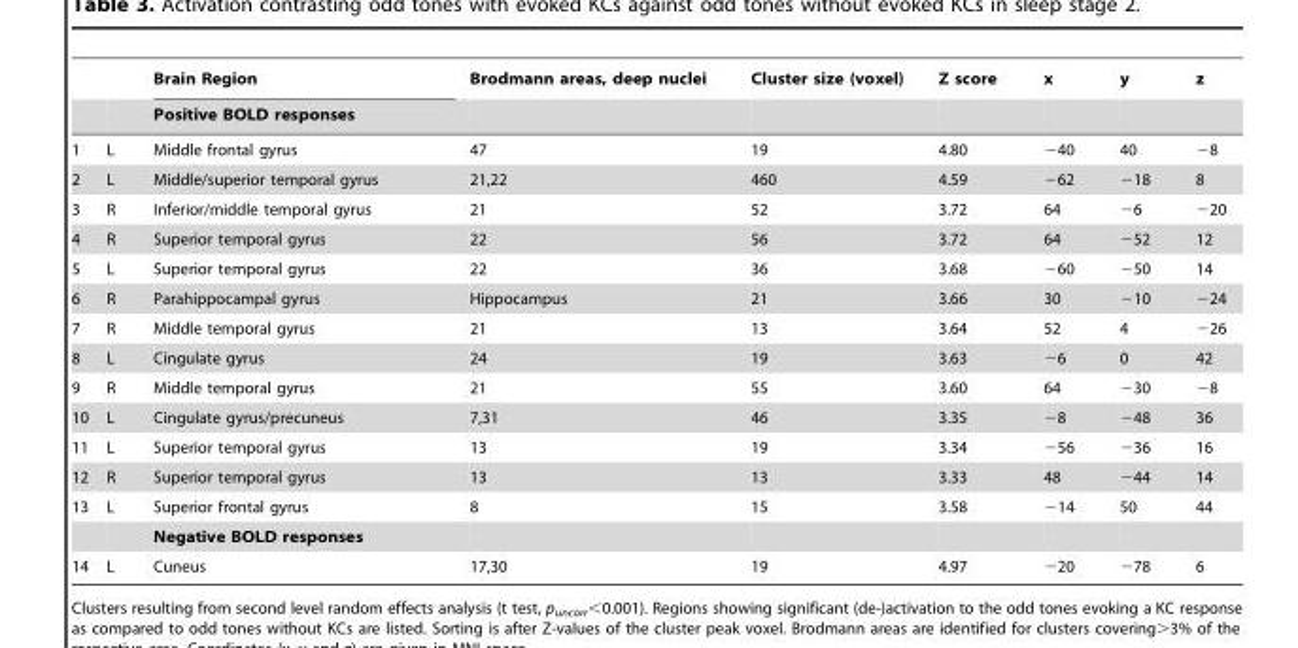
<table><thead><tr><td rowspan="2"></td><td rowspan="2"></td><td rowspan="2">Brain Region Positive BOLD responses</td><td rowspan="2">Brodmann areas, deep nuclei</td><td rowspan="2">Cluster size (voxel)</td><td rowspan="2">Z score</td><td rowspan="2">x</td><td rowspan="2">y</td><td rowspan="2">z</td></tr><tr></tr></thead><tbody><tr><td>1</td><td>L</td><td>Middle frontal gyrus</td><td>47</td><td>19</td><td>4.80</td><td>−40</td><td>40</td><td>−8</td></tr><tr><td>2</td><td>L</td><td>Middle/superior temporal gyrus</td><td>21,22</td><td>460</td><td>4.59</td><td>−62</td><td>−18</td><td>8</td></tr><tr><td>3</td><td>R</td><td>Inferior/middle temporal gyrus</td><td>21</td><td>52</td><td>3.72</td><td>64</td><td>−6</td><td>−20</td></tr><tr><td>4</td><td>R</td><td>Superior temporal gyrus</td><td>22</td><td>56</td><td>3.72</td><td>64</td><td>−52</td><td>12</td></tr><tr><td>5</td><td>L</td><td>Superior temporal gyrus</td><td>22</td><td>36</td><td>3.68</td><td>−60</td><td>−50</td><td>14</td></tr><tr><td>6</td><td>R</td><td>Parahippocampal gyrus</td><td>Hippocampus</td><td>21</td><td>3.66</td><td>30</td><td>−10</td><td>−24</td></tr><tr><td>7</td><td>R</td><td>Middle temporal gyrus</td><td>21</td><td>13</td><td>3.64</td><td>52</td><td>4</td><td>−26</td></tr><tr><td>8</td><td>L</td><td>Cingulate gyrus</td><td>24</td><td>19</td><td>3.63</td><td>−6</td><td>0</td><td>42</td></tr><tr><td>9</td><td>R</td><td>Middle temporal gyrus</td><td>21</td><td>55</td><td>3.60</td><td>64</td><td>−30</td><td>−8</td></tr><tr><td>10</td><td>L</td><td>Cingulate gyrus/precuneus</td><td>7,31</td><td>46</td><td>3.35</td><td>−8</td><td>−48</td><td>36</td></tr><tr><td>11</td><td>L</td><td>Superior temporal gyrus</td><td>13</td><td>19</td><td>3.34</td><td>−56</td><td>−36</td><td>16</td></tr><tr><td>12</td><td>R</td><td>Superior temporal gyrus</td><td>13</td><td>13</td><td>3.33</td><td>48</td><td>−44</td><td>14</td></tr><tr><td rowspan="2">13</td><td>L</td><td>Superior frontal gyrus</td><td>8</td><td>15</td><td>3.58</td><td>−14</td><td>50</td><td>44</td></tr><tr><td></td><td>Negative BOLD responses</td><td></td><td></td><td></td><td></td><td></td><td></td></tr><tr><td>14</td><td>L</td><td>Cuneus</td><td>17,30</td><td>19</td><td>4.97</td><td>−20</td><td>−78</td><td>6</td></tr></tbody></table>